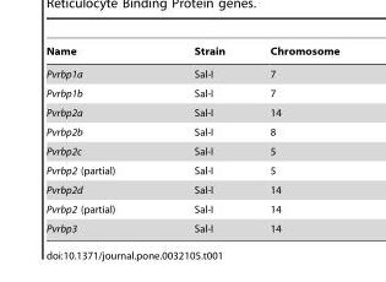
<table><thead><tr><td>Name</td><td>Strain</td><td>Chromosome</td></tr></thead><tbody><tr><td>Pvrbp1a</td><td>Sal-I</td><td>7</td></tr><tr><td>Pvrbp1b</td><td>Sal-I</td><td>7</td></tr><tr><td>Pvrbp2a</td><td>Sal-I</td><td>14</td></tr><tr><td>Pvrbp2b</td><td>Sal-I</td><td>8</td></tr><tr><td>Pvrbp2c</td><td>Sal-I</td><td>5</td></tr><tr><td>Pvrbp2 (partial)</td><td>Sal-I</td><td>5</td></tr><tr><td>Pvrbp2d</td><td>Sal-I</td><td>14</td></tr><tr><td>Pvrbp2 (partial)</td><td>Sal-I</td><td>14</td></tr><tr><td>Pvrbp3</td><td>Sal-I</td><td>14</td></tr></tbody></table>